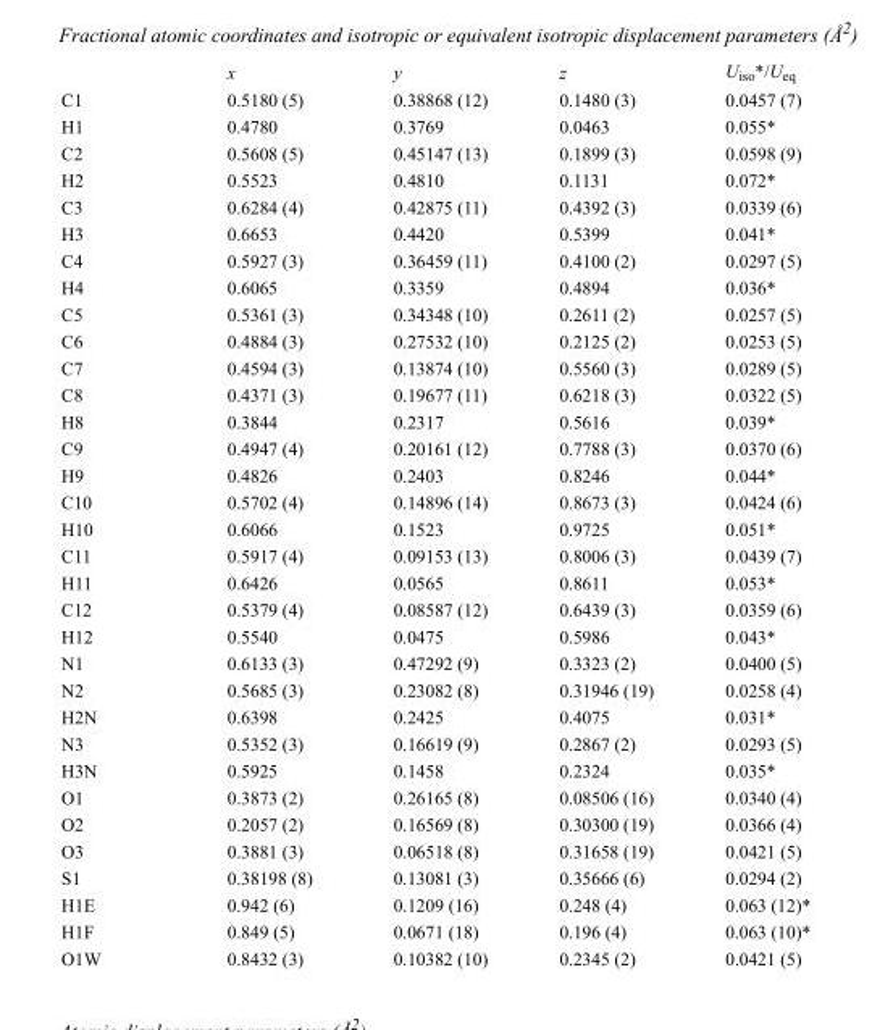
<table><thead><tr><td></td><td>x</td><td>y</td><td>z</td><td>U<sub>iso</sub>*/U<sub>eq</sub></td></tr></thead><tbody><tr><td>C1</td><td>0.5180 (5)</td><td>0.38868 (12)</td><td>0.1480 (3)</td><td>0.0457 (7)</td></tr><tr><td>H1</td><td>0.4780</td><td>0.3769</td><td>0.0463</td><td>0.055*</td></tr><tr><td>C2</td><td>0.5608 (5)</td><td>0.45147 (13)</td><td>0.1899 (3)</td><td>0.0598 (9)</td></tr><tr><td>H2</td><td>0.5523</td><td>0.4810</td><td>0.1131</td><td>0.072*</td></tr><tr><td>C3</td><td>0.6284 (4)</td><td>0.42875 (11)</td><td>0.4392 (3)</td><td>0.0339 (6)</td></tr><tr><td>H3</td><td>0.6653</td><td>0.4420</td><td>0.5399</td><td>0.041*</td></tr><tr><td>C4</td><td>0.5927 (3)</td><td>0.36459 (11)</td><td>0.4100 (2)</td><td>0.0297 (5)</td></tr><tr><td>H4</td><td>0.6065</td><td>0.3359</td><td>0.4894</td><td>0.036*</td></tr><tr><td>C5</td><td>0.5361 (3)</td><td>0.34348 (10)</td><td>0.2611 (2)</td><td>0.0257 (5)</td></tr><tr><td>C6</td><td>0.4884 (3)</td><td>0.27532 (10)</td><td>0.2125 (2)</td><td>0.0253 (5)</td></tr><tr><td>C7</td><td>0.4594 (3)</td><td>0.13874 (10)</td><td>0.5560 (3)</td><td>0.0289 (5)</td></tr><tr><td>C8</td><td>0.4371 (3)</td><td>0.19677 (11)</td><td>0.6218 (3)</td><td>0.0322 (5)</td></tr><tr><td>H8</td><td>0.3844</td><td>0.2317</td><td>0.5616</td><td>0.039*</td></tr><tr><td>C9</td><td>0.4947 (4)</td><td>0.20161 (12)</td><td>0.7788 (3)</td><td>0.0370 (6)</td></tr><tr><td>H9</td><td>0.4826</td><td>0.2403</td><td>0.8246</td><td>0.044*</td></tr><tr><td>C10</td><td>0.5702 (4)</td><td>0.14896 (14)</td><td>0.8673 (3)</td><td>0.0424 (6)</td></tr><tr><td>H10</td><td>0.6066</td><td>0.1523</td><td>0.9725</td><td>0.051*</td></tr><tr><td>C11</td><td>0.5917 (4)</td><td>0.09153 (13)</td><td>0.8006 (3)</td><td>0.0439 (7)</td></tr><tr><td>H11</td><td>0.6426</td><td>0.0565</td><td>0.8611</td><td>0.053*</td></tr><tr><td>C12</td><td>0.5379 (4)</td><td>0.08587 (12)</td><td>0.6439 (3)</td><td>0.0359 (6)</td></tr><tr><td>H12</td><td>0.5540</td><td>0.0475</td><td>0.5986</td><td>0.043*</td></tr><tr><td>N1</td><td>0.6133 (3)</td><td>0.47292 (9)</td><td>0.3323 (2)</td><td>0.0400 (5)</td></tr><tr><td>N2</td><td>0.5685 (3)</td><td>0.23082 (8)</td><td>0.31946 (19)</td><td>0.0258 (4)</td></tr><tr><td>H2N</td><td>0.6398</td><td>0.2425</td><td>0.4075</td><td>0.031*</td></tr><tr><td>N3</td><td>0.5352 (3)</td><td>0.16619 (9)</td><td>0.2867 (2)</td><td>0.0293 (5)</td></tr><tr><td>H3N</td><td>0.5925</td><td>0.1458</td><td>0.2324</td><td>0.035*</td></tr><tr><td>O1</td><td>0.3873 (2)</td><td>0.26165 (8)</td><td>0.08506 (16)</td><td>0.0340 (4)</td></tr><tr><td>O2</td><td>0.2057 (2)</td><td>0.16569 (8)</td><td>0.30300 (19)</td><td>0.0366 (4)</td></tr><tr><td>O3</td><td>0.3881 (3)</td><td>0.06518 (8)</td><td>0.31658 (19)</td><td>0.0421 (5)</td></tr><tr><td>S1</td><td>0.38198 (8)</td><td>0.13081 (3)</td><td>0.35666 (6)</td><td>0.0294 (2)</td></tr><tr><td>H1E</td><td>0.942 (6)</td><td>0.1209 (16)</td><td>0.248 (4)</td><td>0.063 (12)*</td></tr><tr><td>H1F</td><td>0.849 (5)</td><td>0.0671 (18)</td><td>0.196 (4)</td><td>0.063 (10)*</td></tr><tr><td>O1W</td><td>0.8432 (3)</td><td>0.10382 (10)</td><td>0.2345 (2)</td><td>0.0421 (5)</td></tr></tbody></table>